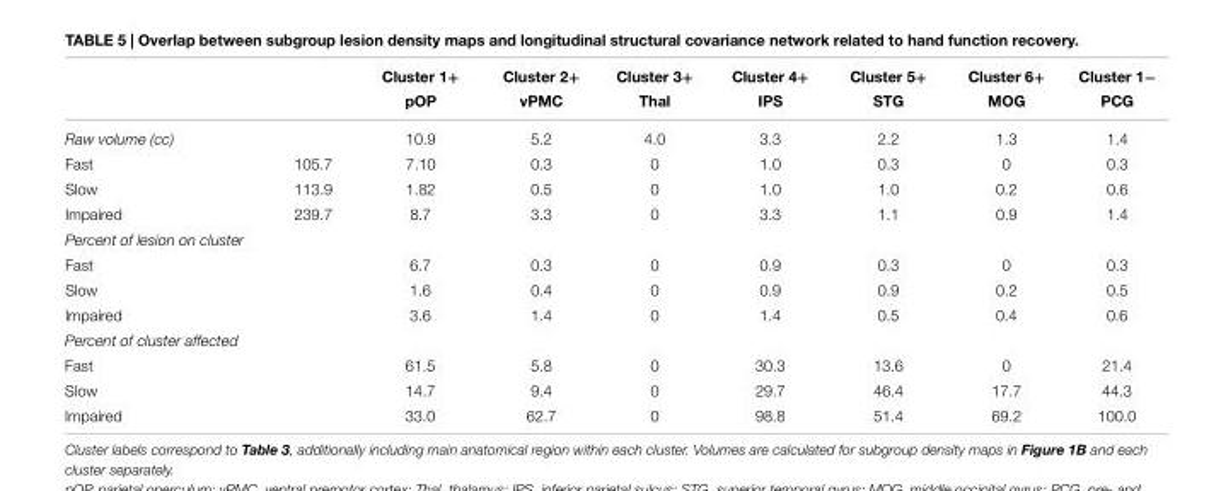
<table><thead><tr><td rowspan="2"></td><td rowspan="2"></td><td rowspan="2">cluster 1+ pOP</td><td rowspan="2">cluster 2+ vPMc</td><td rowspan="2">cluster 3+ Thal</td><td rowspan="2">cluster 4+ iPs</td><td rowspan="2">cluster 5+ sTg</td><td rowspan="2">cluster 6+ MOg</td><td rowspan="2">cluster 1− Pcg</td></tr><tr></tr></thead><tbody><tr><td>Raw volume (cc)</td><td></td><td>10.9</td><td>5.2</td><td>4.0</td><td>3.3</td><td>2.2</td><td>1.3</td><td>1.4</td></tr><tr><td>Fast</td><td>105.7</td><td>7.10</td><td>0.3</td><td>0</td><td>1.0</td><td>0.3</td><td>0</td><td>0.3</td></tr><tr><td>Slow</td><td>113.9</td><td>1.82</td><td>0.5</td><td>0</td><td>1.0</td><td>1.0</td><td>0.2</td><td>0.6</td></tr><tr><td>Impaired</td><td>239.7</td><td>8.7</td><td>3.3</td><td>0</td><td>3.3</td><td>1.1</td><td>0.9</td><td>1.4</td></tr><tr><td colspan="9">Percent of lesion on cluster</td></tr><tr><td>Fast</td><td></td><td>6.7</td><td>0.3</td><td>0</td><td>0.9</td><td>0.3</td><td>0</td><td>0.3</td></tr><tr><td>Slow</td><td></td><td>1.6</td><td>0.4</td><td>0</td><td>0.9</td><td>0.9</td><td>0.2</td><td>0.5</td></tr><tr><td>Impaired</td><td></td><td>3.6</td><td>1.4</td><td>0</td><td>1.4</td><td>0.5</td><td>0.4</td><td>0.6</td></tr><tr><td colspan="9">Percent of cluster affected</td></tr><tr><td>Fast</td><td></td><td>61.5</td><td>5.8</td><td>0</td><td>30.3</td><td>13.6</td><td>0</td><td>21.4</td></tr><tr><td>Slow</td><td></td><td>14.7</td><td>9.4</td><td>0</td><td>29.7</td><td>46.4</td><td>17.7</td><td>44.3</td></tr><tr><td>Impaired</td><td></td><td>33.0</td><td>62.7</td><td>0</td><td>98.8</td><td>51.4</td><td>69.2</td><td>100.0</td></tr></tbody></table>